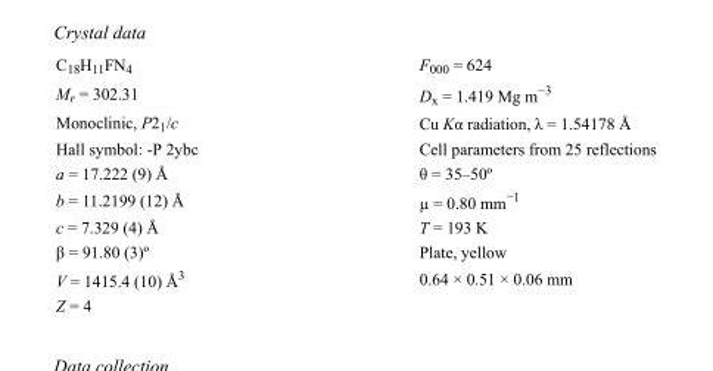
<table><tbody><tr><td>C<sub>18</sub>H<sub>11</sub>FN<sub>4</sub></td><td>F000 = 624</td></tr><tr><td>M<sub>r</sub> = 302.31</td><td>D<sub>x</sub> = 1.419 Mg m<sup>−3</sup></td></tr><tr><td>Monoclinic, P2<sub>1</sub>/c</td><td>Cu Kα radiation, λ = 1.54178 Å</td></tr><tr><td>Hall symbol: -P 2ybc</td><td>Cell parameters from 25 reflections</td></tr><tr><td>a = 17.222 (9) Å</td><td>θ = 35–50º</td></tr><tr><td>b = 11.2199 (12) Å</td><td>µ = 0.80 mm<sup>−1</sup></td></tr><tr><td>c = 7.329 (4) Å</td><td>T = 193 K</td></tr><tr><td>β = 91.80 (3)º</td><td>Plate, yellow</td></tr><tr><td>V = 1415.4 (10) Å<sup>3</sup></td><td>0.64 × 0.51 × 0.06 mm</td></tr><tr><td>Z = 4</td><td></td></tr></tbody></table>